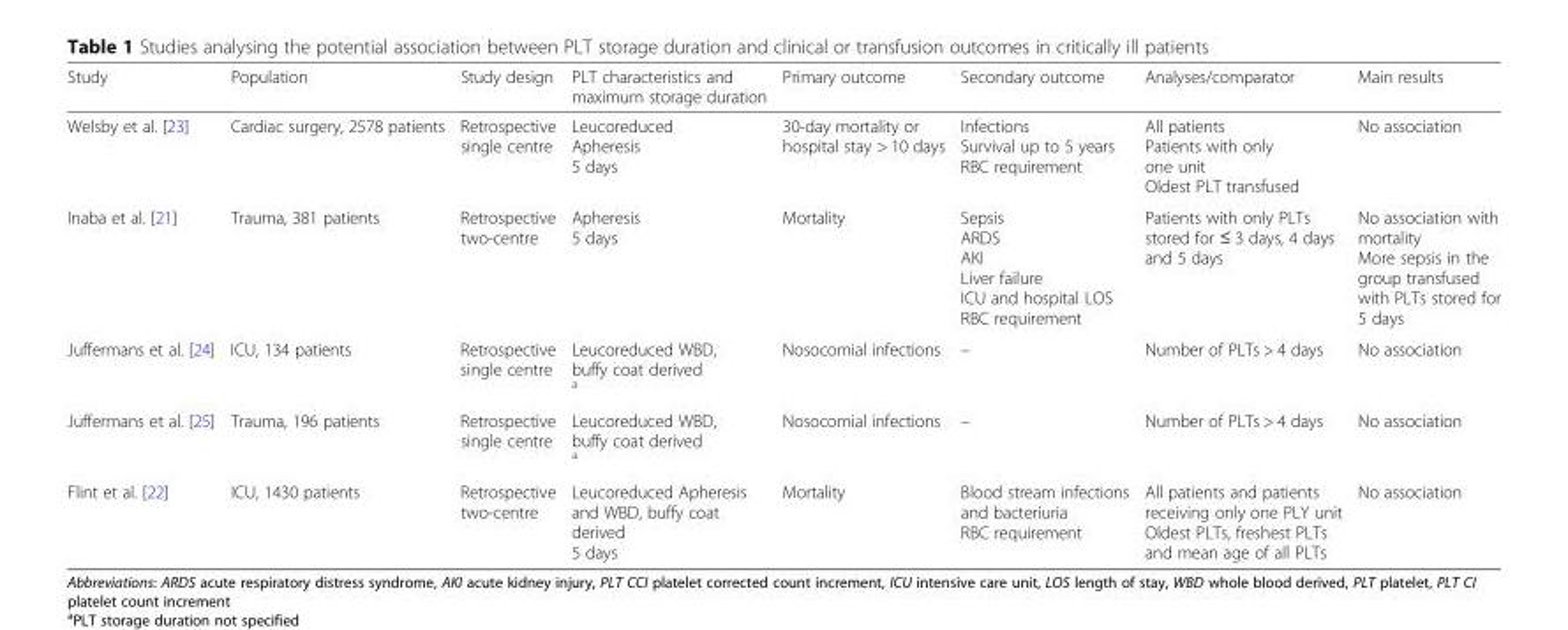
<table><thead><tr><td>Study</td><td>Population</td><td>Study design</td><td>PLT characteristics and maximum storage duration</td><td>Primary outcome</td><td>Secondary outcome</td><td>Analyses/comparator</td><td>Main results</td></tr></thead><tbody><tr><td>Welsby et al. [23]</td><td>Cardiac surgery, 2578 patients</td><td>Retrospective single centre</td><td>Leucoreduced Apheresis 5 days</td><td>30-day mortality or hospital stay &gt; 10 days</td><td>Infections Survival up to 5 years RBC requirement</td><td>All patients Patients with only one unit Oldest PLT transfused</td><td>No association</td></tr><tr><td>Inaba et al. [21]</td><td>Trauma, 381 patients</td><td>Retrospective two-centre</td><td>Apheresis 5 days</td><td>Mortality</td><td>Sepsis ARDS AKI Liver failure ICU and hospital LOS RBC requirement</td><td>Patients with only PLTs stored for ≤ 3 days, 4 days and 5 days</td><td>No association with mortality More sepsis in the group transfused with PLTs stored for 5 days</td></tr><tr><td>Juffermans et al. [24]</td><td>ICU, 134 patients</td><td>Retrospective single centre</td><td>Leucoreduced WBD, buffy coat derived <sup>a</sup></td><td>Nosocomial infections</td><td>–</td><td>Number of PLTs &gt; 4 days</td><td>No association</td></tr><tr><td>Juffermans et al. [25]</td><td>Trauma, 196 patients</td><td>Retrospective single centre</td><td>Leucoreduced WBD, buffy coat derived <sup>a</sup></td><td>Nosocomial infections</td><td>–</td><td>Number of PLTs &gt; 4 days</td><td>No association</td></tr><tr><td>Flint et al. [22]</td><td>ICU, 1430 patients</td><td>Retrospective two-centre</td><td>Leucoreduced Apheresis and WBD, buffy coat derived 5 days</td><td>Mortality</td><td>Blood stream infections and bacteriuria RBC requirement</td><td>All patients and patients receiving only one PLY unit Oldest PLTs, freshest PLTs and mean age of all PLTs</td><td>No association</td></tr></tbody></table>